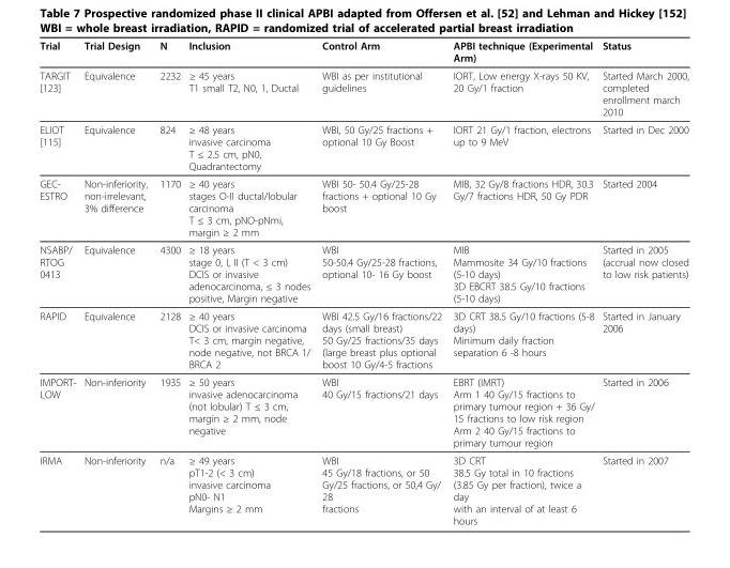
<table><thead><tr><td>Trial</td><td>Trial Design</td><td>N</td><td>Inclusion</td><td>Control Arm</td><td>APBI technique (Experimental Arm)</td><td>Status</td></tr></thead><tbody><tr><td>TARGIT [123]</td><td>Equivalence</td><td>2232</td><td>≥ 45 years T1 small T2, N0, 1, Ductal</td><td>WBI as per institutional guidelines</td><td>IORT, Low energy X-rays 50 KV, 20 Gy/1 fraction</td><td>Started March 2000, completed enrollment march 2010</td></tr><tr><td>ELIOT [115]</td><td>Equivalence</td><td>824</td><td>≥ 48 years invasive carcinoma T ≤ 2.5 cm, pN0, Quadrantectomy</td><td>WBI, 50 Gy/25 fractions + optional 10 Gy Boost</td><td>IORT 21 Gy/1 fraction, electrons up to 9 MeV</td><td>Started in Dec 2000</td></tr><tr><td>GEC- ESTRO</td><td>Non-inferiority, non-irrelevant, 3% difference</td><td>1170</td><td>≥ 40 years stages O-II ductal/lobular carcinoma T ≤ 3 cm, pNO-pNmi, margin ≥ 2 mm</td><td>WBI 50- 50.4 Gy/25-28 fractions + optional 10 Gy boost</td><td>MIB, 32 Gy/8 fractions HDR, 30.3 Gy/7 fractions HDR, 50 Gy PDR</td><td>Started 2004</td></tr><tr><td>NSABP/ RTOG 0413</td><td>Equivalence</td><td>4300</td><td>≥ 18 years stage 0, I, II (T &lt; 3 cm) DCIS or invasive adenocarcinoma, ≤ 3 nodes positive, Margin negative</td><td>WBI 50-50.4 Gy/25-28 fractions, optional 10- 16 Gy boost</td><td>MIB Mammosite 34 Gy/10 fractions (5-10 days) 3D EBCRT 38.5 Gy/10 fractions (5-10 days)</td><td>Started in 2005 (accrual now closed to low risk patients)</td></tr><tr><td>RAPID</td><td>Equivalence</td><td>2128</td><td>≥ 40 years DCIS or invasive carcinoma T&lt; 3 cm, margin negative, node negative, not BRCA 1/ BRCA 2</td><td>WBI 42.5 Gy/16 fractions/22 days (small breast) 50 Gy/25 fractions/35 days (large breast plus optional boost 10 Gy/4-5 fractions</td><td>3D CRT 38.5 Gy/10 fractions (5-8 days) Minimum daily fraction separation 6 -8 hours</td><td>Started in January 2006</td></tr><tr><td>IMPORT- LOW</td><td>Non-inferiority</td><td>1935</td><td>≥ 50 years invasive adenocarcinoma (not lobular) T ≤ 3 cm, margin ≥ 2 mm, node negative</td><td>WBI 40 Gy/15 fractions/21 days</td><td>EBRT (IMRT) Arm 1 40 Gy/15 fractions to primary tumour region + 36 Gy/ 15 fractions to low risk region Arm 2 40 Gy/15 fractions to primary tumour region</td><td>Started in 2006</td></tr><tr><td>IRMA</td><td>Non-inferiority</td><td>n/a</td><td>≥ 49 years pT1-2 (&lt; 3 cm) invasive carcinoma pN0- N1 Margins ≥ 2 mm</td><td>WBI 45 Gy/18 fractions, or 50 Gy/25 fractions, or 50,4 Gy/ 28 fractions</td><td>3D CRT 38.5 Gy total in 10 fractions (3.85 Gy per fraction), twice a day with an interval of at least 6 hours</td><td>Started in 2007</td></tr></tbody></table>